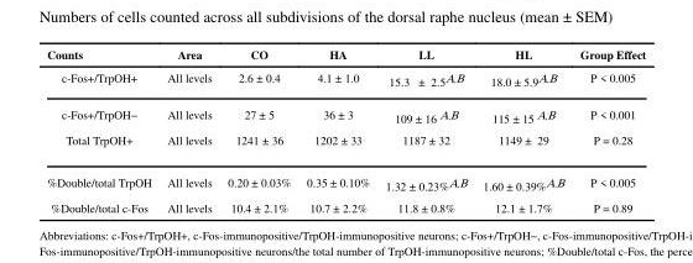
<table><thead><tr><td>Counts</td><td>Area</td><td>CO</td><td>HA</td><td>LL</td><td>HL</td><td>Group Effect</td></tr></thead><tbody><tr><td>c-Fos+/TrpOH+</td><td>All levels</td><td>2.6 ± 0.4</td><td>4.1 ± 1.0</td><td>15.3 ± 2.5<sup>A,B</sup></td><td>18.0 ± 5.9<sup>A,B</sup></td><td>P &lt; 0.005</td></tr><tr><td>c-Fos+/TrpOH−</td><td>All levels</td><td>27 ± 5</td><td>36 ± 3</td><td>109 ± 16 A<sup>,B</sup></td><td>115 ± 15 A<sup>,B</sup></td><td>P &lt; 0.001</td></tr><tr><td>Total TrpOH+</td><td>All levels</td><td>1241 ± 36</td><td>1202 ± 33</td><td>1187 ± 32</td><td>1149 ± 29</td><td>P = 0.28</td></tr><tr><td>%Double/total TrpOH</td><td>All levels</td><td>0.20 ± 0.03%</td><td>0.35 ± 0.10%</td><td>1.32 ± 0.23%<sup>A,B</sup></td><td>1.60 ± 0.39%<sup>A,B</sup></td><td>P &lt; 0.005</td></tr><tr><td>%Double/total c-Fos</td><td>All levels</td><td>10.4 ± 2.1%</td><td>10.7 ± 2.2%</td><td>11.8 ± 0.8%</td><td>12.1 ± 1.7%</td><td>P = 0.89</td></tr></tbody></table>